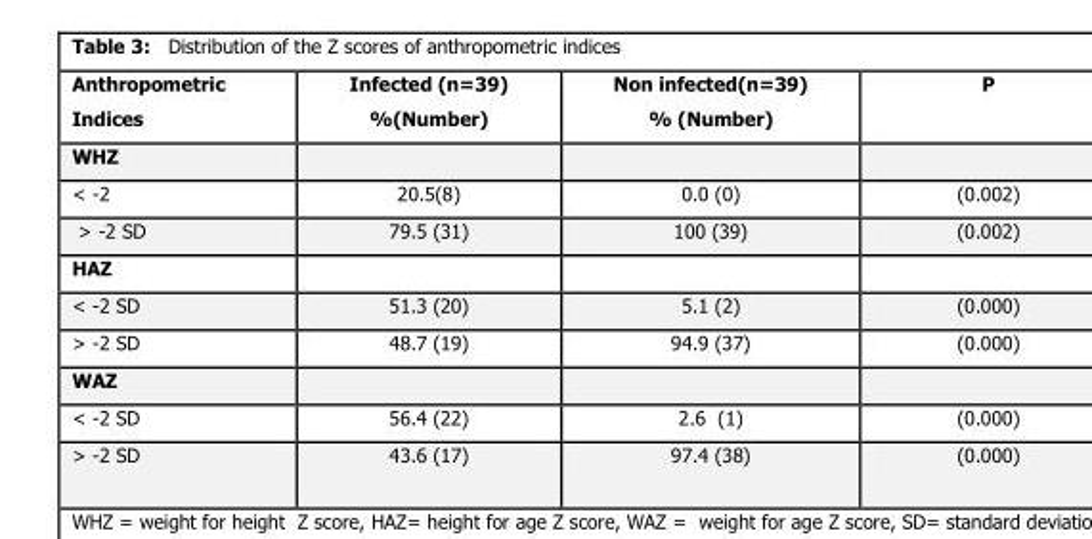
<table><thead><tr><td>Anthropometric Indices</td><td>Infected (n=39) %(Number)</td><td>Non infected(n=39) % (Number)</td><td>P</td></tr></thead><tbody><tr><td colspan="4">WHZ</td></tr><tr><td>&lt; -2</td><td>20.5(8)</td><td>0.0 (0)</td><td>(0.002)</td></tr><tr><td>&gt; -2 SD</td><td>79.5 (31)</td><td>100 (39)</td><td>(0.002)</td></tr><tr><td colspan="4">HAZ</td></tr><tr><td>&lt; -2 SD</td><td>51.3 (20)</td><td>5.1 (2)</td><td>(0.000)</td></tr><tr><td>&gt; -2 SD</td><td>48.7 (19)</td><td>94.9 (37)</td><td>(0.000)</td></tr><tr><td colspan="4">WAZ</td></tr><tr><td>&lt; -2 SD</td><td>56.4 (22)</td><td>2.6 (1)</td><td>(0.000)</td></tr><tr><td>&gt; -2 SD</td><td>43.6 (17)</td><td>97.4 (38)</td><td>(0.000)</td></tr></tbody></table>